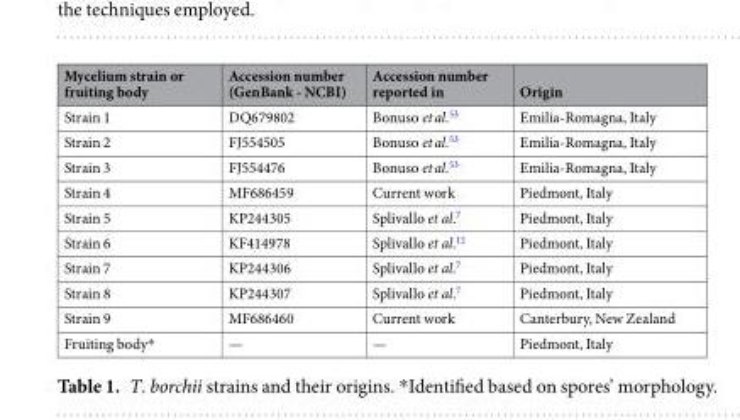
<table><thead><tr><td>Mycelium strain or fruiting body</td><td>Accession number (GenBank - NCBI)</td><td>Accession number reported in</td><td>Origin</td></tr></thead><tbody><tr><td>Strain 1</td><td>DQ679802</td><td>Bonuso et al.<sup>53</sup></td><td>Emilia-Romagna, Italy</td></tr><tr><td>Strain 2</td><td>FJ554505</td><td>Bonuso et al.<sup>53</sup></td><td>Emilia-Romagna, Italy</td></tr><tr><td>Strain 3</td><td>FJ554476</td><td>Bonuso et al.<sup>53</sup></td><td>Emilia-Romagna, Italy</td></tr><tr><td>Strain 4</td><td>MF686459</td><td>Current work</td><td>Piedmont, Italy</td></tr><tr><td>Strain 5</td><td>KP244305</td><td>Splivallo et al.<sup>7</sup></td><td>Piedmont, Italy</td></tr><tr><td>Strain 6</td><td>KF414978</td><td>Splivallo et al.<sup>12</sup></td><td>Piedmont, Italy</td></tr><tr><td>Strain 7</td><td>KP244306</td><td>Splivallo et al.<sup>7</sup></td><td>Piedmont, Italy</td></tr><tr><td>Strain 8</td><td>KP244307</td><td>Splivallo et al.<sup>7</sup></td><td>Piedmont, Italy</td></tr><tr><td>Strain 9</td><td>MF686460</td><td>Current work</td><td>Canterbury, New Zealand</td></tr><tr><td>Fruiting body*</td><td>—</td><td>—</td><td>Piedmont, Italy</td></tr></tbody></table>